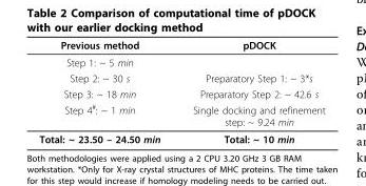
<table><thead><tr><td>Previous method</td><td>pDOCK</td></tr></thead><tbody><tr><td colspan="2">Step 1: ~ 5 min</td></tr><tr><td>Step 2: ~ 30 s</td><td>Preparatory Step 1: ~ 3*s</td></tr><tr><td>Step 3: ~ 18 min</td><td>Preparatory Step 2: ~ 42.6 s</td></tr><tr><td>Step 4<sup>#</sup>: ~ 1 min</td><td>Single docking and refinement step: ~ 9.24 min</td></tr><tr><td>Total: ~ 23.50 – 24.50 min</td><td>Total: ~ 10 min</td></tr></tbody></table>